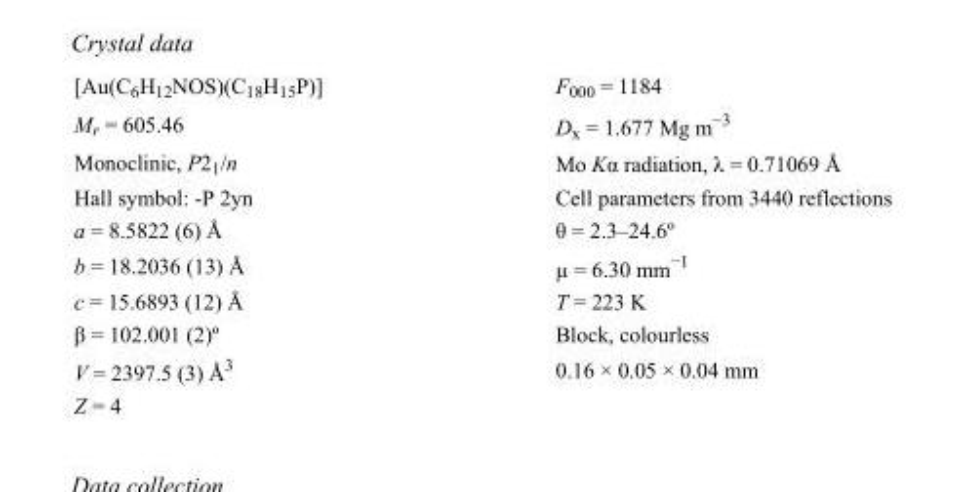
<table><tbody><tr><td>[Au(C<sub>6</sub>H<sub>12</sub>NOS)(C<sub>18</sub>H<sub>15</sub>P)]</td><td>F000 = 1184</td></tr><tr><td>M<sub>r</sub> = 605.46</td><td>D<sub>x</sub> = 1.677 Mg m<sup>−3</sup></td></tr><tr><td>Monoclinic, P2<sub>1</sub>/n</td><td>Mo Kα radiation, λ = 0.71069 Å</td></tr><tr><td>Hall symbol: -P 2yn</td><td>Cell parameters from 3440 reflections</td></tr><tr><td>a = 8.5822 (6) Å</td><td>θ = 2.3–24.6º</td></tr><tr><td>b = 18.2036 (13) Å</td><td>µ = 6.30 mm<sup>−1</sup></td></tr><tr><td>c = 15.6893 (12) Å</td><td>T = 223 K</td></tr><tr><td>β = 102.001 (2)º</td><td>Block, colourless</td></tr><tr><td>V = 2397.5 (3) Å<sup>3</sup></td><td>0.16 × 0.05 × 0.04 mm</td></tr><tr><td>Z = 4</td><td></td></tr></tbody></table>